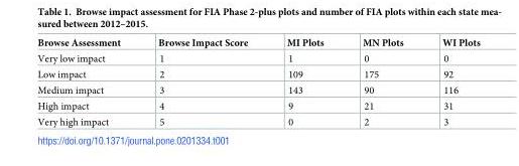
<table><thead><tr><td>Browse Assessment</td><td>Browse Impact Score</td><td>MI Plots</td><td>MN Plots</td><td>WI Plots</td></tr></thead><tbody><tr><td>Very low impact</td><td>1</td><td>1</td><td>0</td><td>0</td></tr><tr><td>Low impact</td><td>2</td><td>109</td><td>175</td><td>92</td></tr><tr><td>Medium impact</td><td>3</td><td>143</td><td>90</td><td>116</td></tr><tr><td>High impact</td><td>4</td><td>9</td><td>21</td><td>31</td></tr><tr><td>Very high impact</td><td>5</td><td>0</td><td>2</td><td>3</td></tr></tbody></table>